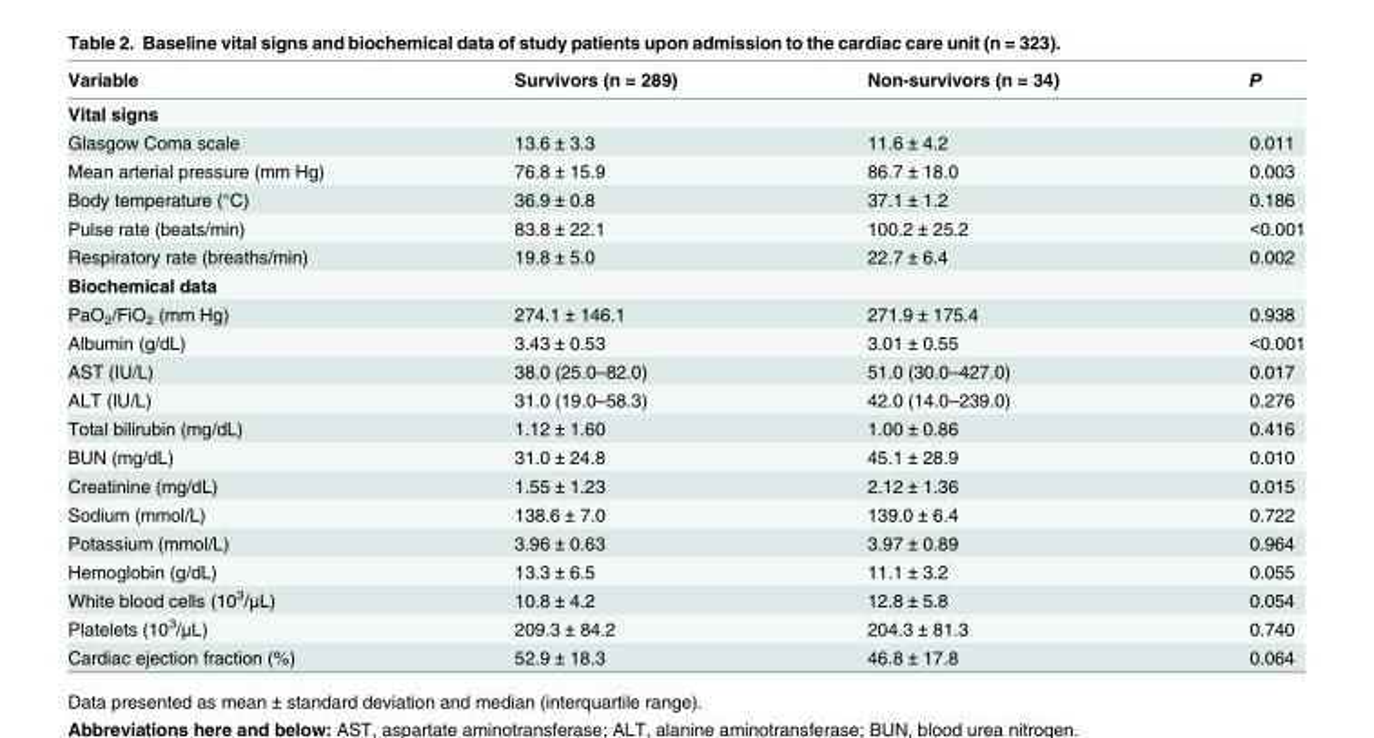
<table><thead><tr><td>Variable</td><td>Survivors (n = 289)</td><td>Non-survivors (n = 34)</td><td>P</td></tr></thead><tbody><tr><td colspan="4">Vital signs</td></tr><tr><td>Glasgow Coma scale</td><td>13.6 ± 3.3</td><td>11.6 ± 4.2</td><td>0.011</td></tr><tr><td>Mean arterial pressure (mm Hg)</td><td>76.8 ± 15.9</td><td>86.7 ± 18.0</td><td>0.003</td></tr><tr><td>Body temperature (°C)</td><td>36.9 ± 0.8</td><td>37.1 ± 1.2</td><td>0.186</td></tr><tr><td>Pulse rate (beats/min)</td><td>83.8 ± 22.1</td><td>100.2 ± 25.2</td><td>&lt;0.001</td></tr><tr><td>Respiratory rate (breaths/min)</td><td>19.8 ± 5.0</td><td>22.7 ± 6.4</td><td>0.002</td></tr><tr><td colspan="4">Biochemical data</td></tr><tr><td>PaO<sub>2</sub>/FiO<sub>2</sub> (mm Hg)</td><td>274.1 ± 146.1</td><td>271.9 ± 175.4</td><td>0.938</td></tr><tr><td>Albumin (g/dL)</td><td>3.43 ± 0.53</td><td>3.01 ± 0.55</td><td>&lt;0.001</td></tr><tr><td>AST (IU/L)</td><td>38.0 (25.0–82.0)</td><td>51.0 (30.0–427.0)</td><td>0.017</td></tr><tr><td>ALT (IU/L)</td><td>31.0 (19.0–58.3)</td><td>42.0 (14.0–239.0)</td><td>0.276</td></tr><tr><td>Total bilirubin (mg/dL)</td><td>1.12 ± 1.60</td><td>1.00 ± 0.86</td><td>0.416</td></tr><tr><td>BUN (mg/dL)</td><td>31.0 ± 24.8</td><td>45.1 ± 28.9</td><td>0.010</td></tr><tr><td>Creatinine (mg/dL)</td><td>1.55 ± 1.23</td><td>2.12 ± 1.36</td><td>0.015</td></tr><tr><td>Sodium (mmol/L)</td><td>138.6 ± 7.0</td><td>139.0 ± 6.4</td><td>0.722</td></tr><tr><td>Potassium (mmol/L)</td><td>3.96 ± 0.63</td><td>3.97 ± 0.89</td><td>0.964</td></tr><tr><td>Hemoglobin (g/dL)</td><td>13.3 ± 6.5</td><td>11.1 ± 3.2</td><td>0.055</td></tr><tr><td>White blood cells (10<sup>3</sup>/μL)</td><td>10.8 ± 4.2</td><td>12.8 ± 5.8</td><td>0.054</td></tr><tr><td>Platelets (10<sup>3</sup>/μL)</td><td>209.3 ± 84.2</td><td>204.3 ± 81.3</td><td>0.740</td></tr><tr><td>Cardiac ejection fraction (%)</td><td>52.9 ± 18.3</td><td>46.8 ± 17.8</td><td>0.064</td></tr></tbody></table>